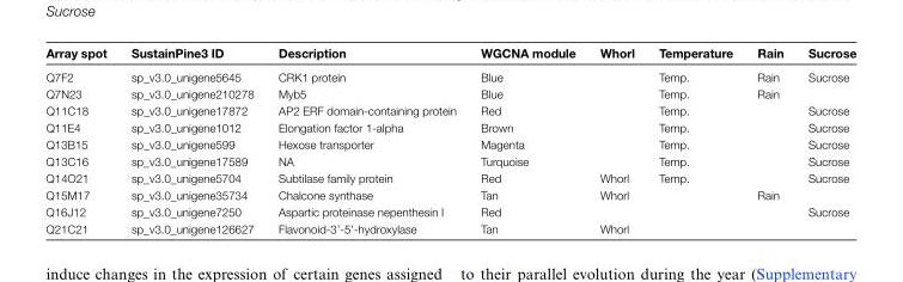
<table><thead><tr><td>Array spot</td><td>SustainPine3 ID</td><td>Description</td><td>WGCNA module</td><td>Whorl</td><td>Temperature</td><td>Rain</td><td>Sucrose</td></tr></thead><tbody><tr><td>Q7F2</td><td>sp_v3.0_unigene5645</td><td>CRK1 protein</td><td>Blue</td><td></td><td>Temp.</td><td>Rain</td><td>Sucrose</td></tr><tr><td>Q7N23</td><td>sp_v3.0_unigene210278</td><td>Myb5</td><td>Blue</td><td></td><td>Temp.</td><td>Rain</td><td></td></tr><tr><td>Q11C18</td><td>sp_v3.0_unigene17872</td><td>AP2 ERF domain-containing protein</td><td>Red</td><td></td><td>Temp.</td><td></td><td>Sucrose</td></tr><tr><td>Q11E4</td><td>sp_v3.0_unigene1012</td><td>Elongation factor 1-alpha</td><td>Brown</td><td></td><td>Temp.</td><td></td><td>Sucrose</td></tr><tr><td>Q13B15</td><td>sp_v3.0_unigene599</td><td>Hexose transporter</td><td>Magenta</td><td></td><td>Temp.</td><td></td><td>Sucrose</td></tr><tr><td>Q13C16</td><td>sp_v3.0_unigene17589</td><td>NA</td><td>Turquoise</td><td></td><td>Temp.</td><td></td><td>Sucrose</td></tr><tr><td>Q14O21</td><td>sp_v3.0_unigene5704</td><td>Subtilase family protein</td><td>Red</td><td>Whorl</td><td>Temp.</td><td></td><td>Sucrose</td></tr><tr><td>Q15M17</td><td>sp_v3.0_unigene35734</td><td>Chalcone synthase</td><td>Tan</td><td>Whorl</td><td></td><td>Rain</td><td></td></tr><tr><td>Q16J12</td><td>sp_v3.0_unigene7250</td><td>Aspartic proteinase nepenthesin I</td><td>Red</td><td></td><td></td><td></td><td>Sucrose</td></tr><tr><td>Q21C21</td><td>sp_v3.0_unigene126627</td><td>Flavonoid-3’-5’-hydroxylase</td><td>Tan</td><td>Whorl</td><td></td><td></td><td></td></tr></tbody></table>